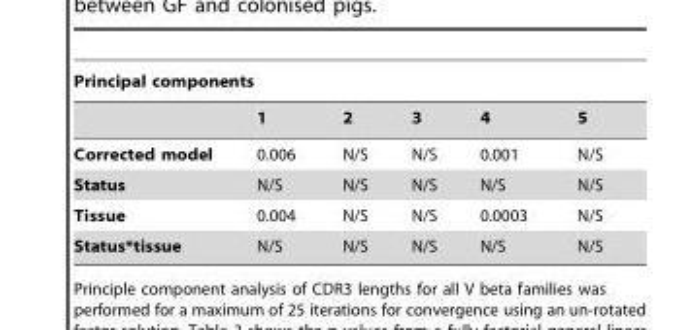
<table><thead><tr><td colspan="6">Principal components</td></tr><tr><td></td><td>1</td><td>2</td><td>3</td><td>4</td><td>5</td></tr></thead><tbody><tr><td>Corrected model</td><td>0.006</td><td>N/S</td><td>N/S</td><td>0.001</td><td>N/S</td></tr><tr><td>Status</td><td>N/S</td><td>N/S</td><td>N/S</td><td>N/S</td><td>N/S</td></tr><tr><td>Tissue</td><td>0.004</td><td>N/S</td><td>N/S</td><td>0.0003</td><td>N/S</td></tr><tr><td>Status*tissue</td><td>N/S</td><td>N/S</td><td>N/S</td><td>N/S</td><td>N/S</td></tr></tbody></table>